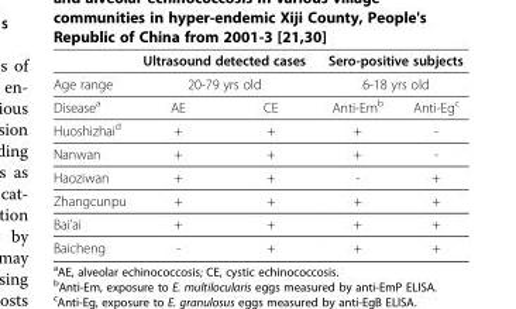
<table><thead><tr><td rowspan="3">Age range Disease<sup>a</sup></td><td rowspan="2" colspan="2">Ultrasound detected cases 20-79 yrs old</td><td rowspan="2" colspan="2">Sero-positive subjects 6-18 yrs old</td></tr><tr></tr><tr><td>AE</td><td>CE</td><td>Anti-Em<sup>b</sup></td><td>Anti-Eg<sup>c</sup></td></tr></thead><tbody><tr><td>Huoshizhai<sup>d</sup></td><td>+</td><td>+</td><td>+</td><td>-</td></tr><tr><td>Nanwan</td><td>+</td><td>+</td><td>+</td><td>-</td></tr><tr><td>Haoziwan</td><td>+</td><td>+</td><td>-</td><td>+</td></tr><tr><td>Zhangcunpu</td><td>+</td><td>+</td><td>+</td><td>+</td></tr><tr><td>Bai’ai</td><td>+</td><td>+</td><td>+</td><td>+</td></tr><tr><td>Baicheng</td><td>-</td><td>+</td><td>+</td><td>+</td></tr></tbody></table>